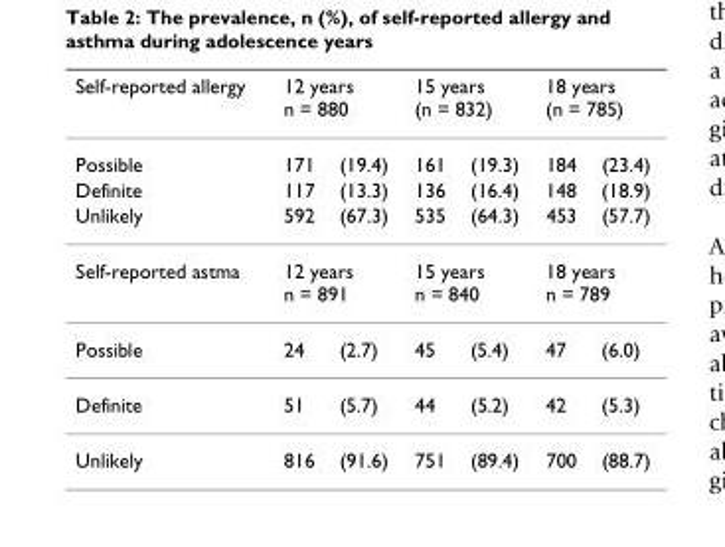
<table><thead><tr><td rowspan="2">Self-reported allergy Possible</td><td colspan="2">12 years n = 880</td><td colspan="2">15 years (n = 832)</td><td colspan="2">18 years (n = 785)</td></tr><tr><td>171</td><td>(19.4)</td><td>161</td><td>(19.3)</td><td>184</td><td>(23.4)</td></tr></thead><tbody><tr><td>Definite</td><td>117</td><td>(13.3)</td><td>136</td><td>(16.4)</td><td>148</td><td>(18.9)</td></tr><tr><td>Unlikely</td><td>592</td><td>(67.3)</td><td>535</td><td>(64.3)</td><td>453</td><td>(57.7)</td></tr><tr><td>Self-reported astma</td><td colspan="2">12 years n = 891</td><td colspan="2">15 years n = 840</td><td colspan="2">18 years n = 789</td></tr><tr><td>Possible</td><td>24</td><td>(2.7)</td><td>45</td><td>(5.4)</td><td>47</td><td>(6.0)</td></tr><tr><td>Definite</td><td>51</td><td>(5.7)</td><td>44</td><td>(5.2)</td><td>42</td><td>(5.3)</td></tr><tr><td>Unlikely</td><td>816</td><td>(91.6)</td><td>751</td><td>(89.4)</td><td>700</td><td>(88.7)</td></tr></tbody></table>